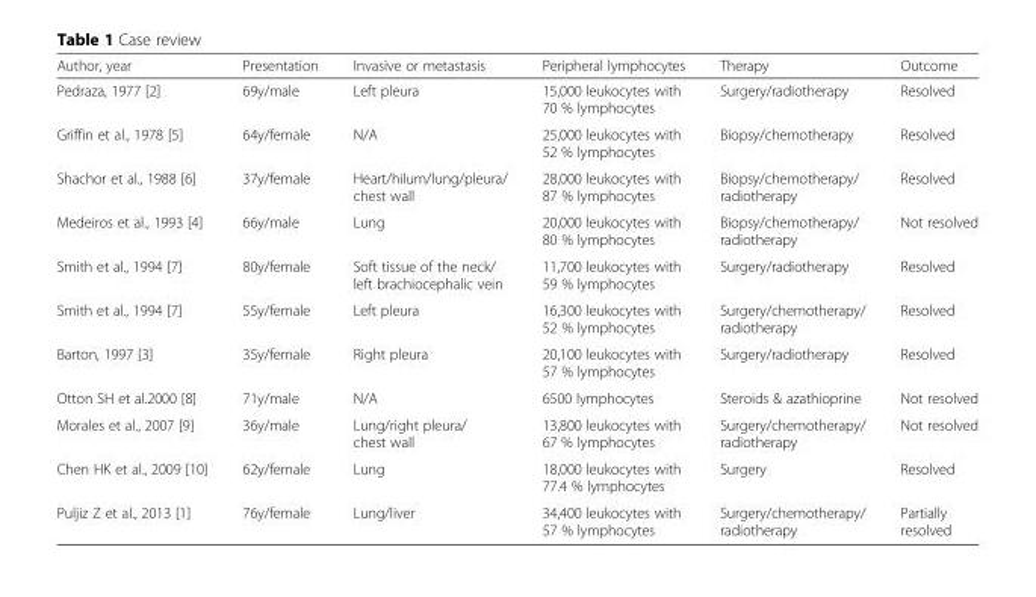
<table><thead><tr><td>Author, year</td><td>Presentation</td><td>Invasive or metastasis</td><td>Peripheral lymphocytes</td><td>Therapy</td><td>Outcome</td></tr></thead><tbody><tr><td>Pedraza, 1977 [2]</td><td>69y/male</td><td>Left pleura</td><td>15,000 leukocytes with 70 % lymphocytes</td><td>Surgery/radiotherapy</td><td>Resolved</td></tr><tr><td>Griffin et al., 1978 [5]</td><td>64y/female</td><td>N/A</td><td>25,000 leukocytes with 52 % lymphocytes</td><td>Biopsy/chemotherapy</td><td>Resolved</td></tr><tr><td>Shachor et al., 1988 [6]</td><td>37y/female</td><td>Heart/hilum/lung/pleura/ chest wall</td><td>28,000 leukocytes with 87 % lymphocytes</td><td>Biopsy/chemotherapy/ radiotherapy</td><td>Resolved</td></tr><tr><td>Medeiros et al., 1993 [4]</td><td>66y/male</td><td>Lung</td><td>20,000 leukocytes with 80 % lymphocytes</td><td>Biopsy/chemotherapy/ radiotherapy</td><td>Not resolved</td></tr><tr><td>Smith et al., 1994 [7]</td><td>80y/female</td><td>Soft tissue of the neck/ left brachiocephalic vein</td><td>11,700 leukocytes with 59 % lymphocytes</td><td>Surgery/radiotherapy</td><td>Resolved</td></tr><tr><td>Smith et al., 1994 [7]</td><td>55y/female</td><td>Left pleura</td><td>16,300 leukocytes with 52 % lymphocytes</td><td>Surgery/chemotherapy/ radiotherapy</td><td>Resolved</td></tr><tr><td>Barton, 1997 [3]</td><td>35y/female</td><td>Right pleura</td><td>20,100 leukocytes with 57 % lymphocytes</td><td>Surgery/radiotherapy</td><td>Resolved</td></tr><tr><td>Otton SH et al.2000 [8]</td><td>71y/male</td><td>N/A</td><td>6500 lymphocytes</td><td>Steroids &amp; azathioprine</td><td>Not resolved</td></tr><tr><td>Morales et al., 2007 [9]</td><td>36y/male</td><td>Lung/right pleura/ chest wall</td><td>13,800 leukocytes with 67 % lymphocytes</td><td>Surgery/chemotherapy/ radiotherapy</td><td>Not resolved</td></tr><tr><td>Chen HK et al., 2009 [10]</td><td>62y/female</td><td>Lung</td><td>18,000 leukocytes with 77.4 % lymphocytes</td><td>Surgery</td><td>Resolved</td></tr><tr><td>Puljiz Z et al., 2013 [1]</td><td>76y/female</td><td>Lung/liver</td><td>34,400 leukocytes with 57 % lymphocytes</td><td>Surgery/chemotherapy/ radiotherapy</td><td>Partially resolved</td></tr></tbody></table>